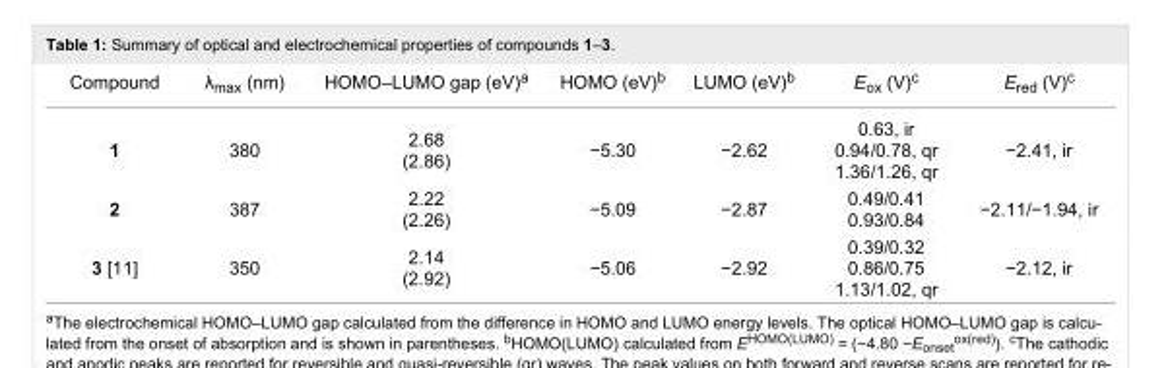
<table><tbody><tr><td>Compound</td><td>λ<sub>max</sub> (nm)</td><td>HOMO–LUMO gap (eV)<sup>a</sup></td><td>HOMO (eV)<sup>b</sup></td><td>LUMO (eV)<sup>b</sup></td><td>E<sub>ox</sub> (V)<sup>c</sup></td><td>E<sub>red</sub> (V)<sup>c</sup></td></tr><tr><td>1</td><td>380</td><td>2.68 (2.86)</td><td>−5.30</td><td>−2.62</td><td>0.63, ir 0.94/0.78, qr 1.36/1.26, qr</td><td>−2.41, ir</td></tr><tr><td>2</td><td>387</td><td>2.22 (2.26)</td><td>−5.09</td><td>−2.87</td><td>0.49/0.41 0.93/0.84</td><td>−2.11/−1.94, ir</td></tr><tr><td>3 [11]</td><td>350</td><td>2.14 (2.92)</td><td>−5.06</td><td>−2.92</td><td>0.39/0.32 0.86/0.75 1.13/1.02, qr</td><td>−2.12, ir</td></tr></tbody></table>